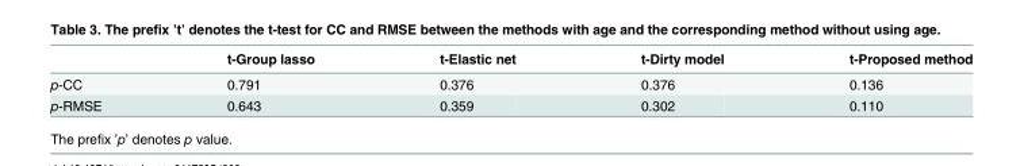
<table><thead><tr><td></td><td>t-Group lasso</td><td>t-Elastic net</td><td>t-Dirty model</td><td>t-Proposed method</td></tr></thead><tbody><tr><td>p-CC</td><td>0.791</td><td>0.376</td><td>0.376</td><td>0.136</td></tr><tr><td>p-RMSE</td><td>0.643</td><td>0.359</td><td>0.302</td><td>0.110</td></tr></tbody></table>